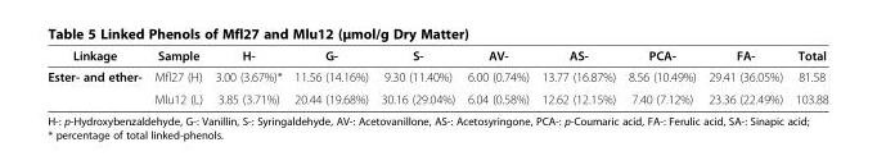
<table><thead><tr><td>Linkage</td><td>Sample</td><td>H-</td><td>G-</td><td>S-</td><td>AV-</td><td>AS-</td><td>PCA-</td><td>FA-</td><td>Total</td></tr></thead><tbody><tr><td rowspan="2">Ester- and ether-</td><td>Mfl27 (H)</td><td>3.00 (3.67%)*</td><td>11.56 (14.16%)</td><td>9.30 (11.40%)</td><td>6.00 (0.74%)</td><td>13.77 (16.87%)</td><td>8.56 (10.49%)</td><td>29.41 (36.05%)</td><td>81.58</td></tr><tr><td>Mlu12 (L)</td><td>3.85 (3.71%)</td><td>20.44 (19.68%)</td><td>30.16 (29.04%)</td><td>6.04 (0.58%)</td><td>12.62 (12.15%)</td><td>7.40 (7.12%)</td><td>23.36 (22.49%)</td><td>103.88</td></tr></tbody></table>